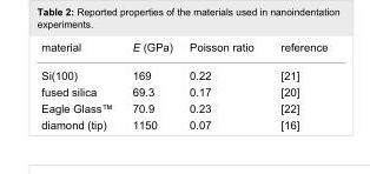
<table><tbody><tr><td>material</td><td>E (GPa)</td><td>Poisson ratio</td><td>reference</td></tr><tr><td>Si(100)</td><td>169</td><td>0.22</td><td>[21]</td></tr><tr><td>fused silica</td><td>69.3</td><td>0.17</td><td>[20]</td></tr><tr><td>Eagle Glass™</td><td>70.9</td><td>0.23</td><td>[22]</td></tr><tr><td>diamond (tip)</td><td>1150</td><td>0.07</td><td>[16]</td></tr></tbody></table>